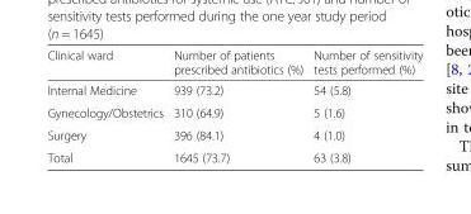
<table><thead><tr><td>Clinical ward</td><td>Number of patients prescribed antibiotics (%)</td><td>Number of sensitivity tests performed (%)</td></tr></thead><tbody><tr><td>Internal Medicine</td><td>939 (73.2)</td><td>54 (5.8)</td></tr><tr><td>Gynecology/Obstetrics</td><td>310 (64.9)</td><td>5 (1.6)</td></tr><tr><td>Surgery</td><td>396 (84.1)</td><td>4 (1.0)</td></tr><tr><td>Total</td><td>1645 (73.7)</td><td>63 (3.8)</td></tr></tbody></table>